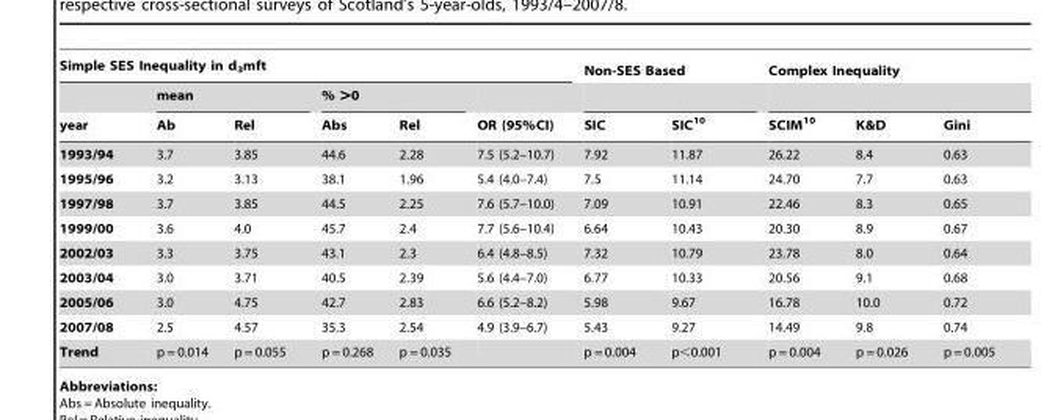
<table><thead><tr><td colspan="6">Simple SES Inequality in d<sub>3</sub>mft</td><td colspan="2">Non-SES Based</td><td colspan="3">Complex Inequality</td></tr><tr><td rowspan="2">year</td><td colspan="2">mean</td><td colspan="2">% &gt;0</td><td rowspan="2">OR (95%CI)</td><td rowspan="2">SIC</td><td rowspan="2">SIC<sup>10</sup></td><td rowspan="2">SCIM<sup>10</sup></td><td rowspan="2">K&amp;D</td><td rowspan="2">Gini</td></tr><tr><td>Ab</td><td>Rel</td><td>Abs</td><td>Rel</td></tr></thead><tbody><tr><td>1993/94</td><td>3.7</td><td>3.85</td><td>44.6</td><td>2.28</td><td>7.5 (5.2–10.7)</td><td>7.92</td><td>11.87</td><td>26.22</td><td>8.4</td><td>0.63</td></tr><tr><td>1995/96</td><td>3.2</td><td>3.13</td><td>38.1</td><td>1.96</td><td>5.4 (4.0–7.4)</td><td>7.5</td><td>11.14</td><td>24.70</td><td>7.7</td><td>0.63</td></tr><tr><td>1997/98</td><td>3.7</td><td>3.85</td><td>44.5</td><td>2.25</td><td>7.6 (5.7–10.0)</td><td>7.09</td><td>10.91</td><td>22.46</td><td>8.3</td><td>0.65</td></tr><tr><td>1999/00</td><td>3.6</td><td>4.0</td><td>45.7</td><td>2.4</td><td>7.7 (5.6–10.4)</td><td>6.64</td><td>10.43</td><td>20.30</td><td>8.9</td><td>0.67</td></tr><tr><td>2002/03</td><td>3.3</td><td>3.75</td><td>43.1</td><td>2.3</td><td>6.4 (4.8–8.5)</td><td>7.32</td><td>10.79</td><td>23.78</td><td>8.0</td><td>0.64</td></tr><tr><td>2003/04</td><td>3.0</td><td>3.71</td><td>40.5</td><td>2.39</td><td>5.6 (4.4–7.0)</td><td>6.77</td><td>10.33</td><td>20.56</td><td>9.1</td><td>0.68</td></tr><tr><td>2005/06</td><td>3.0</td><td>4.75</td><td>42.7</td><td>2.83</td><td>6.6 (5.2–8.2)</td><td>5.98</td><td>9.67</td><td>16.78</td><td>10.0</td><td>0.72</td></tr><tr><td>2007/08</td><td>2.5</td><td>4.57</td><td>35.3</td><td>2.54</td><td>4.9 (3.9–6.7)</td><td>5.43</td><td>9.27</td><td>14.49</td><td>9.8</td><td>0.74</td></tr><tr><td>Trend</td><td>p = 0.014</td><td>p = 0.055</td><td>p = 0.268</td><td>p = 0.035</td><td></td><td>p = 0.004</td><td>p&lt;0.001</td><td>p = 0.004</td><td>p = 0.026</td><td>p = 0.005</td></tr></tbody></table>